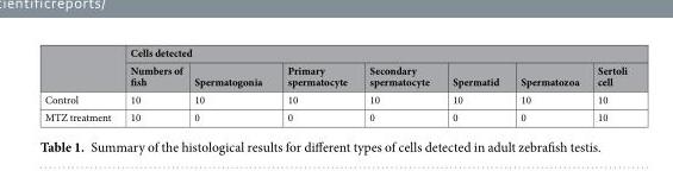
<table><thead><tr><td rowspan="2"></td><td colspan="7">Cells detected</td></tr><tr><td>Numbers of fish</td><td>Spermatogonia</td><td>Primary spermatocyte</td><td>Secondary spermatocyte</td><td>Spermatid</td><td>Spermatozoa</td><td>Sertoli cell</td></tr></thead><tbody><tr><td>Control</td><td>10</td><td>10</td><td>10</td><td>10</td><td>10</td><td>10</td><td>10</td></tr><tr><td>MTZ treatment</td><td>10</td><td>0</td><td>0</td><td>0</td><td>0</td><td>0</td><td>10</td></tr></tbody></table>